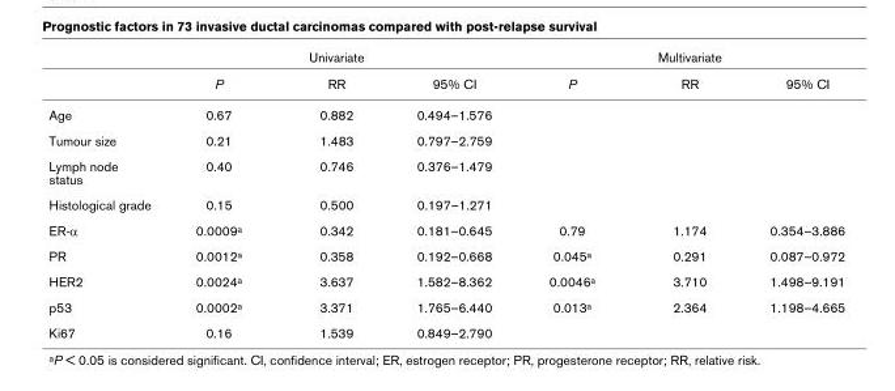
<table><thead><tr><td rowspan="2"></td><td colspan="3">Univariate</td><td colspan="3">Multivariate</td></tr><tr><td>P</td><td>RR</td><td>95% CI</td><td>P</td><td>RR</td><td>95% CI</td></tr></thead><tbody><tr><td>Age</td><td>0.67</td><td>0.882</td><td>0.494–1.576</td><td></td><td></td><td></td></tr><tr><td>Tumour size</td><td>0.21</td><td>1.483</td><td>0.797–2.759</td><td></td><td></td><td></td></tr><tr><td>Lymph node status</td><td>0.40</td><td>0.746</td><td>0.376–1.479</td><td></td><td></td><td></td></tr><tr><td>Histological grade</td><td>0.15</td><td>0.500</td><td>0.197–1.271</td><td></td><td></td><td></td></tr><tr><td>ER-α</td><td>0.0009a</td><td>0.342</td><td>0.181–0.645</td><td>0.79</td><td>1.174</td><td>0.354–3.886</td></tr><tr><td>PR</td><td>0.0012a</td><td>0.358</td><td>0.192–0.668</td><td>0.045a</td><td>0.291</td><td>0.087–0.972</td></tr><tr><td>HER2</td><td>0.0024a</td><td>3.637</td><td>1.582–8.362</td><td>0.0046a</td><td>3.710</td><td>1.498–9.191</td></tr><tr><td>p53</td><td>0.0002a</td><td>3.371</td><td>1.765–6.440</td><td>0.013a</td><td>2.364</td><td>1.198–4.665</td></tr><tr><td>Ki67</td><td>0.16</td><td>1.539</td><td>0.849–2.790</td><td></td><td></td><td></td></tr></tbody></table>